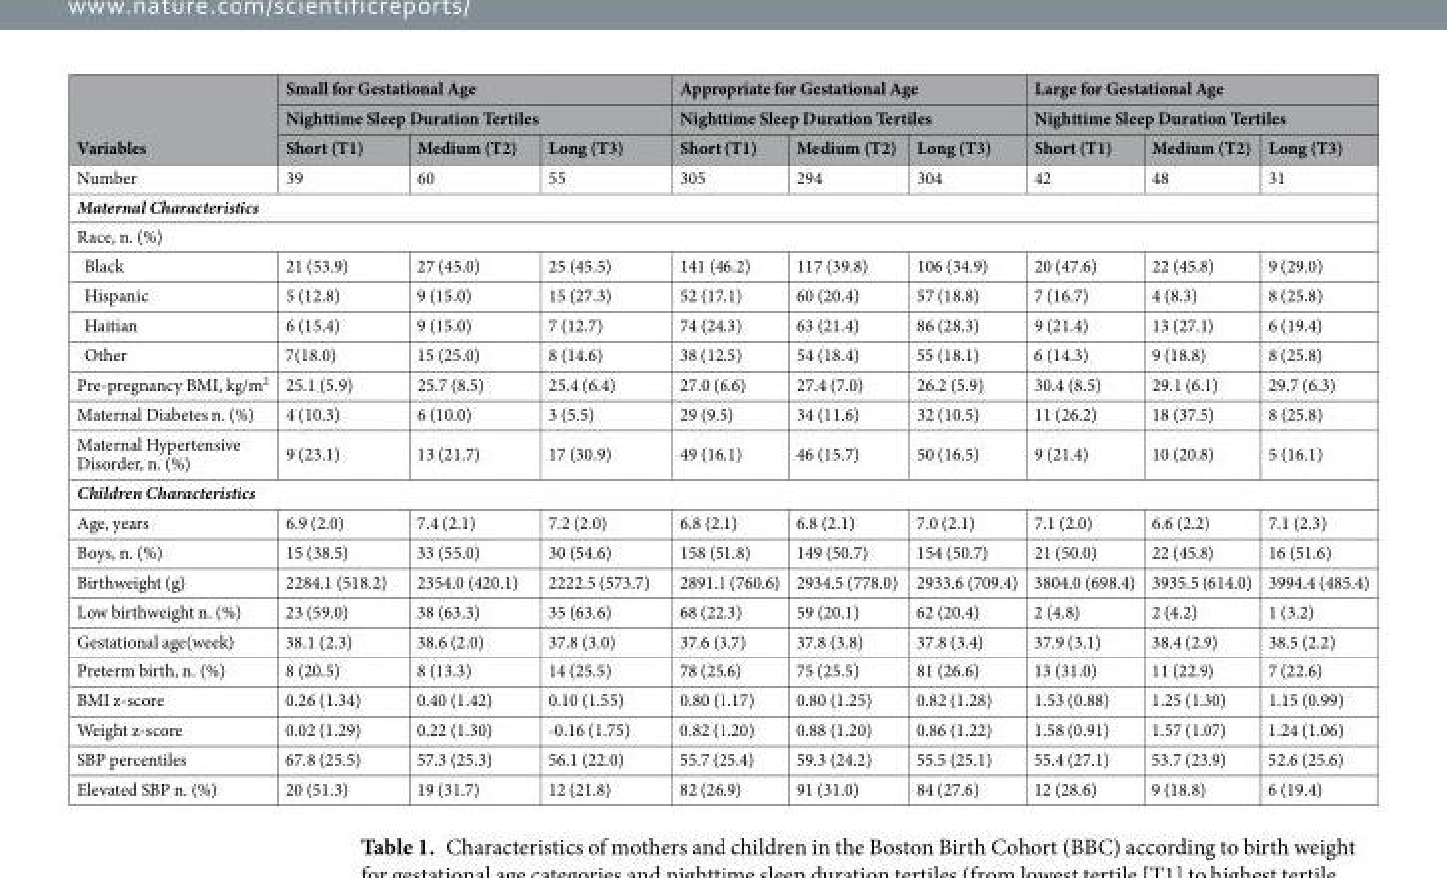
<table><thead><tr><td rowspan="3">Variables</td><td rowspan="2" colspan="3">Small for Gestational Age Nighttime Sleep Duration Tertiles</td><td rowspan="2" colspan="3">Appropriate for Gestational Age Nighttime Sleep Duration Tertiles</td><td rowspan="2" colspan="3">Large for Gestational Age Nighttime Sleep Duration Tertiles</td></tr><tr></tr><tr><td>Short (T1)</td><td>Medium (T2)</td><td>Long (T3)</td><td>Short (T1)</td><td>Medium (T2)</td><td>Long (T3)</td><td>Short (T1)</td><td>Medium (T2)</td><td>Long (T3)</td></tr></thead><tbody><tr><td>Number</td><td>39</td><td>60</td><td>55</td><td>305</td><td>294</td><td>304</td><td>42</td><td>48</td><td>31</td></tr><tr><td colspan="10">Maternal Characteristics</td></tr><tr><td colspan="10">Race, n. (%)</td></tr><tr><td>Black</td><td>21 (53.9)</td><td>27 (45.0)</td><td>25 (45.5)</td><td>141 (46.2)</td><td>117 (39.8)</td><td>106 (34.9)</td><td>20 (47.6)</td><td>22 (45.8)</td><td>9 (29.0)</td></tr><tr><td>Hispanic</td><td>5 (12.8)</td><td>9 (15.0)</td><td>15 (27.3)</td><td>52 (17.1)</td><td>60 (20.4)</td><td>57 (18.8)</td><td>7 (16.7)</td><td>4 (8.3)</td><td>8 (25.8)</td></tr><tr><td>Haitian</td><td>6 (15.4)</td><td>9 (15.0)</td><td>7 (12.7)</td><td>74 (24.3)</td><td>63 (21.4)</td><td>86 (28.3)</td><td>9 (21.4)</td><td>13 (27.1)</td><td>6 (19.4)</td></tr><tr><td>Other</td><td>7(18.0)</td><td>15 (25.0)</td><td>8 (14.6)</td><td>38 (12.5)</td><td>54 (18.4)</td><td>55 (18.1)</td><td>6 (14.3)</td><td>9 (18.8)</td><td>8 (25.8)</td></tr><tr><td>Pre-pregnancy BMI, kg/m<sup>2</sup></td><td>25.1 (5.9)</td><td>25.7 (8.5)</td><td>25.4 (6.4)</td><td>27.0 (6.6)</td><td>27.4 (7.0)</td><td>26.2 (5.9)</td><td>30.4 (8.5)</td><td>29.1 (6.1)</td><td>29.7 (6.3)</td></tr><tr><td>Maternal Diabetes n. (%)</td><td>4 (10.3)</td><td>6 (10.0)</td><td>3 (5.5)</td><td>29 (9.5)</td><td>34 (11.6)</td><td>32 (10.5)</td><td>11 (26.2)</td><td>18 (37.5)</td><td>8 (25.8)</td></tr><tr><td>Maternal Hypertensive Disorder, n. (%)</td><td>9 (23.1)</td><td>13 (21.7)</td><td>17 (30.9)</td><td>49 (16.1)</td><td>46 (15.7)</td><td>50 (16.5)</td><td>9 (21.4)</td><td>10 (20.8)</td><td>5 (16.1)</td></tr><tr><td colspan="10">Children Characteristics</td></tr><tr><td>Age, years</td><td>6.9 (2.0)</td><td>7.4 (2.1)</td><td>7.2 (2.0)</td><td>6.8 (2.1)</td><td>6.8 (2.1)</td><td>7.0 (2.1)</td><td>7.1 (2.0)</td><td>6.6 (2.2)</td><td>7.1 (2.3)</td></tr><tr><td>Boys, n. (%)</td><td>15 (38.5)</td><td>33 (55.0)</td><td>30 (54.6)</td><td>158 (51.8)</td><td>149 (50.7)</td><td>154 (50.7)</td><td>21 (50.0)</td><td>22 (45.8)</td><td>16 (51.6)</td></tr><tr><td>Birthweight (g)</td><td>2284.1 (518.2)</td><td>2354.0 (420.1)</td><td>2222.5 (573.7)</td><td>2891.1 (760.6)</td><td>2934.5 (778.0)</td><td>2933.6 (709.4)</td><td>3804.0 (698.4)</td><td>3935.5 (614.0)</td><td>3994.4 (485.4)</td></tr><tr><td>Low birthweight n. (%)</td><td>23 (59.0)</td><td>38 (63.3)</td><td>35 (63.6)</td><td>68 (22.3)</td><td>59 (20.1)</td><td>62 (20.4)</td><td>2 (4.8)</td><td>2 (4.2)</td><td>1 (3.2)</td></tr><tr><td>Gestational age(week)</td><td>38.1 (2.3)</td><td>38.6 (2.0)</td><td>37.8 (3.0)</td><td>37.6 (3.7)</td><td>37.8 (3.8)</td><td>37.8 (3.4)</td><td>37.9 (3.1)</td><td>38.4 (2.9)</td><td>38.5 (2.2)</td></tr><tr><td>Preterm birth, n. (%)</td><td>8 (20.5)</td><td>8 (13.3)</td><td>14 (25.5)</td><td>78 (25.6)</td><td>75 (25.5)</td><td>81 (26.6)</td><td>13 (31.0)</td><td>11 (22.9)</td><td>7 (22.6)</td></tr><tr><td>BMI z-score</td><td>0.26 (1.34)</td><td>0.40 (1.42)</td><td>0.10 (1.55)</td><td>0.80 (1.17)</td><td>0.80 (1.25)</td><td>0.82 (1.28)</td><td>1.53 (0.88)</td><td>1.25 (1.30)</td><td>1.15 (0.99)</td></tr><tr><td>Weight z-score</td><td>0.02 (1.29)</td><td>0.22 (1.30)</td><td>-0.16 (1.75)</td><td>0.82 (1.20)</td><td>0.88 (1.20)</td><td>0.86 (1.22)</td><td>1.58 (0.91)</td><td>1.57 (1.07)</td><td>1.24 (1.06)</td></tr><tr><td>SBP percentiles</td><td>67.8 (25.5)</td><td>57.3 (25.3)</td><td>56.1 (22.0)</td><td>55.7 (25.4)</td><td>59.3 (24.2)</td><td>55.5 (25.1)</td><td>55.4 (27.1)</td><td>53.7 (23.9)</td><td>52.6 (25.6)</td></tr><tr><td>Elevated SBP n. (%)</td><td>20 (51.3)</td><td>19 (31.7)</td><td>12 (21.8)</td><td>82 (26.9)</td><td>91 (31.0)</td><td>84 (27.6)</td><td>12 (28.6)</td><td>9 (18.8)</td><td>6 (19.4)</td></tr></tbody></table>